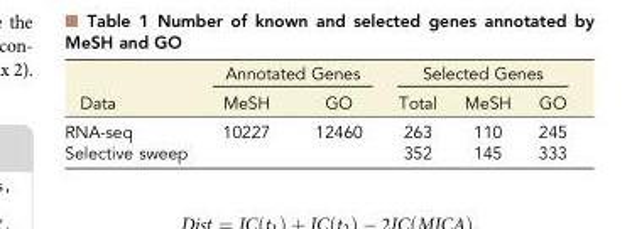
<table><thead><tr><td rowspan="2">Data</td><td colspan="2">Annotated Genes</td><td colspan="3">Selected Genes</td></tr><tr><td>MeSH</td><td>GO</td><td>Total</td><td>MeSH</td><td>GO</td></tr></thead><tbody><tr><td>RNA-seq</td><td rowspan="2">10227</td><td rowspan="2">12460</td><td>263</td><td>110</td><td>245</td></tr><tr><td>Selective sweep</td><td>352</td><td>145</td><td>333</td></tr></tbody></table>